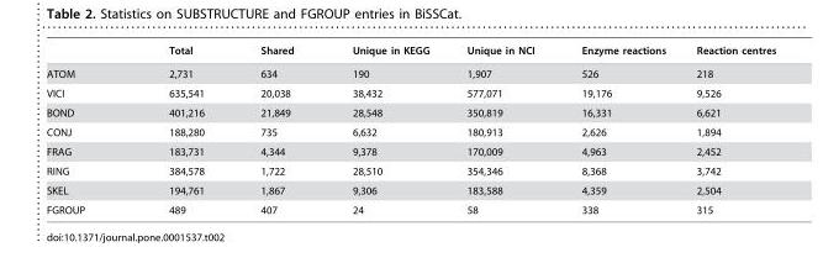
<table><thead><tr><td></td><td>Total</td><td>Shared</td><td>Unique in KEGG</td><td>Unique in NCI</td><td>Enzyme reactions</td><td>Reaction centres</td></tr></thead><tbody><tr><td>ATOM</td><td>2,731</td><td>634</td><td>190</td><td>1,907</td><td>526</td><td>218</td></tr><tr><td>VICI</td><td>635,541</td><td>20,038</td><td>38,432</td><td>577,071</td><td>19,176</td><td>9,526</td></tr><tr><td>BOND</td><td>401,216</td><td>21,849</td><td>28,548</td><td>350,819</td><td>16,331</td><td>6,621</td></tr><tr><td>CONJ</td><td>188,280</td><td>735</td><td>6,632</td><td>180,913</td><td>2,626</td><td>1,894</td></tr><tr><td>FRAG</td><td>183,731</td><td>4,344</td><td>9,378</td><td>170,009</td><td>4,963</td><td>2,452</td></tr><tr><td>RING</td><td>384,578</td><td>1,722</td><td>28,510</td><td>354,346</td><td>8,368</td><td>3,742</td></tr><tr><td>SKEL</td><td>194,761</td><td>1,867</td><td>9,306</td><td>183,588</td><td>4,359</td><td>2,504</td></tr><tr><td>FGROUP</td><td>489</td><td>407</td><td>24</td><td>58</td><td>338</td><td>315</td></tr></tbody></table>